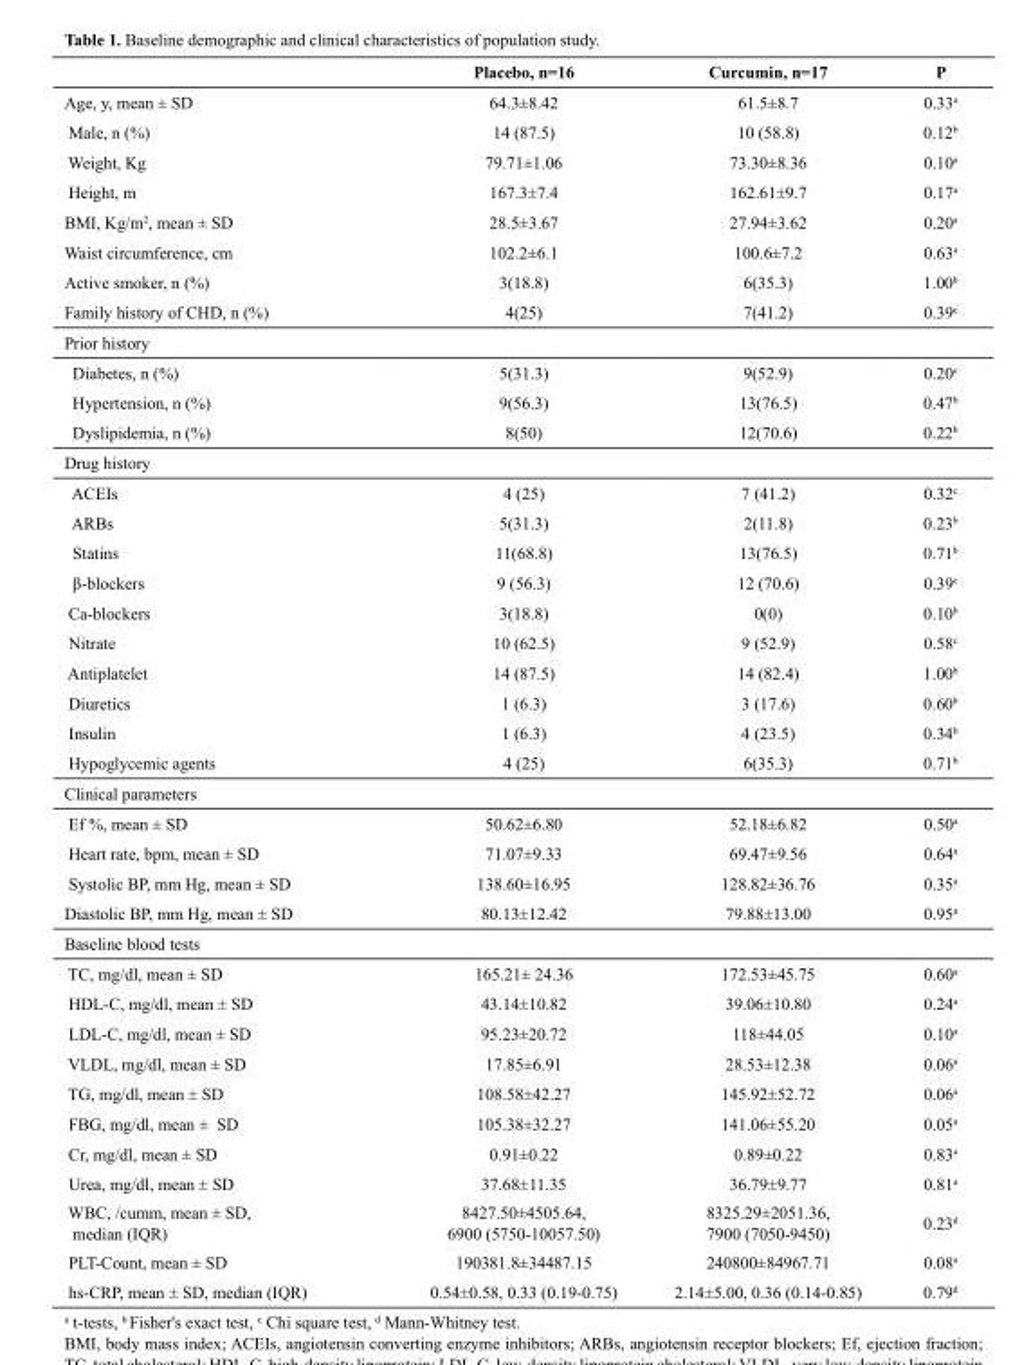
<table><thead><tr><td></td><td>Placebo, n=16</td><td>Curcumin, n=17</td><td>P</td></tr></thead><tbody><tr><td>Age, y, mean ± SD</td><td>64.3±8.42</td><td>61.5±8.7</td><td>0.33<sup>a</sup></td></tr><tr><td>Male, n (%)</td><td>14 (87.5)</td><td>10 (58.8)</td><td>0.12<sup>b</sup></td></tr><tr><td>Weight, Kg</td><td>79.71±1.06</td><td>73.30±8.36</td><td>0.10<sup>a</sup></td></tr><tr><td>Height, m</td><td>167.3±7.4</td><td>162.61±9.7</td><td>0.17<sup>a</sup></td></tr><tr><td>BMI, Kg/m<sup>2</sup>, mean ± SD</td><td>28.5±3.67</td><td>27.94±3.62</td><td>0.20<sup>a</sup></td></tr><tr><td>Waist circumference, cm</td><td>102.2±6.1</td><td>100.6±7.2</td><td>0.63<sup>a</sup></td></tr><tr><td>Active smoker, n (%)</td><td>3(18.8)</td><td>6(35.3)</td><td>1.00<sup>b</sup></td></tr><tr><td>Family history of CHD, n (%)</td><td>4(25)</td><td>7(41.2)</td><td>0.39<sup>c</sup></td></tr><tr><td colspan="4">Prior history</td></tr><tr><td>Diabetes, n (%)</td><td>5(31.3)</td><td>9(52.9)</td><td>0.20<sup>c</sup></td></tr><tr><td>Hypertension, n (%)</td><td>9(56.3)</td><td>13(76.5)</td><td>0.47<sup>b</sup></td></tr><tr><td>Dyslipidemia, n (%)</td><td>8(50)</td><td>12(70.6)</td><td>0.22<sup>b</sup></td></tr><tr><td colspan="4">Drug history</td></tr><tr><td>ACEIs</td><td>4 (25)</td><td>7 (41.2)</td><td>0.32<sup>c</sup></td></tr><tr><td>ARBs</td><td>5(31.3)</td><td>2(11.8)</td><td>0.23<sup>b</sup></td></tr><tr><td>Statins</td><td>11(68.8)</td><td>13(76.5)</td><td>0.71<sup>b</sup></td></tr><tr><td>β-blockers</td><td>9 (56.3)</td><td>12 (70.6)</td><td>0.39<sup>c</sup></td></tr><tr><td>Ca-blockers</td><td>3(18.8)</td><td>0(0)</td><td>0.10<sup>b</sup></td></tr><tr><td>Nitrate</td><td>10 (62.5)</td><td>9 (52.9)</td><td>0.58<sup>c</sup></td></tr><tr><td>Antiplatelet</td><td>14 (87.5)</td><td>14 (82.4)</td><td>1.00<sup>b</sup></td></tr><tr><td>Diuretics</td><td>1 (6.3)</td><td>3 (17.6)</td><td>0.60<sup>b</sup></td></tr><tr><td>Insulin</td><td>1 (6.3)</td><td>4 (23.5)</td><td>0.34<sup>b</sup></td></tr><tr><td>Hypoglycemic agents</td><td>4 (25)</td><td>6(35.3)</td><td>0.71<sup>b</sup></td></tr><tr><td colspan="4">Clinical parameters</td></tr><tr><td>Ef %, mean ± SD</td><td>50.62±6.80</td><td>52.18±6.82</td><td>0.50<sup>a</sup></td></tr><tr><td>Heart rate, bpm, mean ± SD</td><td>71.07±9.33</td><td>69.47±9.56</td><td>0.64<sup>a</sup></td></tr><tr><td>Systolic BP, mm Hg, mean ± SD</td><td>138.60±16.95</td><td>128.82±36.76</td><td>0.35<sup>a</sup></td></tr><tr><td>Diastolic BP, mm Hg, mean ± SD</td><td>80.13±12.42</td><td>79.88±13.00</td><td>0.95<sup>a</sup></td></tr><tr><td colspan="4">Baseline blood tests</td></tr><tr><td>TC, mg/dl, mean ± SD</td><td>165.21± 24.36</td><td>172.53±45.75</td><td>0.60<sup>a</sup></td></tr><tr><td>HDL-C, mg/dl, mean ± SD</td><td>43.14±10.82</td><td>39.06±10.80</td><td>0.24<sup>a</sup></td></tr><tr><td>LDL-C, mg/dl, mean ± SD</td><td>95.23±20.72</td><td>118±44.05</td><td>0.10<sup>a</sup></td></tr><tr><td>VLDL, mg/dl, mean ± SD</td><td>17.85±6.91</td><td>28.53±12.38</td><td>0.06<sup>a</sup></td></tr><tr><td>TG, mg/dl, mean ± SD</td><td>108.58±42.27</td><td>145.92±52.72</td><td>0.06<sup>a</sup></td></tr><tr><td>FBG, mg/dl, mean ± SD</td><td>105.38±32.27</td><td>141.06±55.20</td><td>0.05<sup>a</sup></td></tr><tr><td>Cr, mg/dl, mean ± SD</td><td>0.91±0.22</td><td>0.89±0.22</td><td>0.83<sup>a</sup></td></tr><tr><td>Urea, mg/dl, mean ± SD</td><td>37.68±11.35</td><td>36.79±9.77</td><td>0.81<sup>a</sup></td></tr><tr><td>WBC, /cumm, mean ± SD, median (IQR)</td><td>8427.50±4505.64, 6900 (5750-10057.50)</td><td>8325.29±2051.36, 7900 (7050-9450)</td><td>0.23<sup>d</sup></td></tr><tr><td>PLT-Count, mean ± SD</td><td>190381.8±34487.15</td><td>240800±84967.71</td><td>0.08<sup>a</sup></td></tr><tr><td>hs-CRP, mean ± SD, median (IQR)</td><td>0.54±0.58, 0.33 (0.19-0.75)</td><td>2.14±5.00, 0.36 (0.14-0.85)</td><td>0.79<sup>d</sup></td></tr></tbody></table>